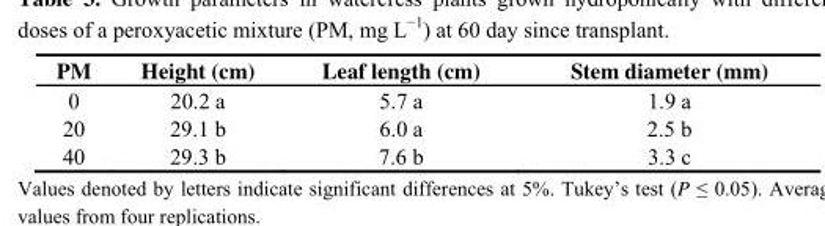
<table><thead><tr><td>PM</td><td>Height (cm)</td><td>Leaf length (cm)</td><td>Stem diameter (mm)</td></tr></thead><tbody><tr><td>0</td><td>20.2 a</td><td>5.7 a</td><td>1.9 a</td></tr><tr><td>20</td><td>29.1 b</td><td>6.0 a</td><td>2.5 b</td></tr><tr><td>40</td><td>29.3 b</td><td>7.6 b</td><td>3.3 c</td></tr></tbody></table>